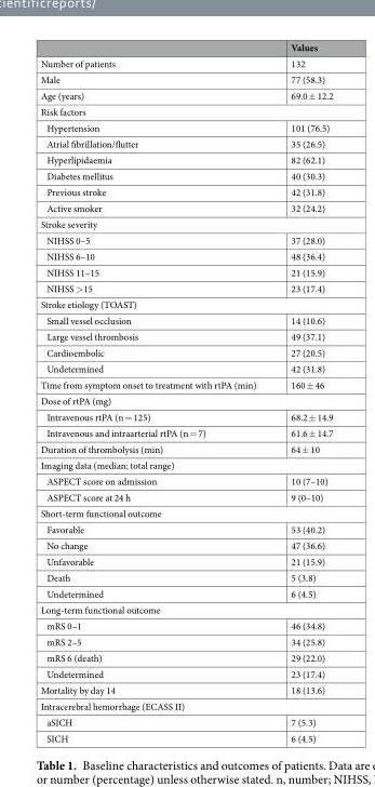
<table><thead><tr><td></td><td>Values</td></tr></thead><tbody><tr><td>Number of patients</td><td>132</td></tr><tr><td>Male</td><td>77 (58.3)</td></tr><tr><td>Age (years)</td><td>69.0 ± 12.2</td></tr><tr><td colspan="2">Risk factors</td></tr><tr><td>Hypertension</td><td>101 (76.5)</td></tr><tr><td>Atrial fibrillation/flutter</td><td>35 (26.5)</td></tr><tr><td>Hyperlipidaemia</td><td>82 (62.1)</td></tr><tr><td>Diabetes mellitus</td><td>40 (30.3)</td></tr><tr><td>Previous stroke</td><td>42 (31.8)</td></tr><tr><td>Active smoker</td><td>32 (24.2)</td></tr><tr><td colspan="2">Stroke severity</td></tr><tr><td>NIHSS 0–5</td><td>37 (28.0)</td></tr><tr><td>NIHSS 6–10</td><td>48 (36.4)</td></tr><tr><td>NIHSS 11–15</td><td>21 (15.9)</td></tr><tr><td>NIHSS &gt;15</td><td>23 (17.4)</td></tr><tr><td colspan="2">Stroke etiology (TOAST)</td></tr><tr><td>Small vessel occlusion</td><td>14 (10.6)</td></tr><tr><td>Large vessel thrombosis</td><td>49 (37.1)</td></tr><tr><td>Cardioembolic</td><td>27 (20.5)</td></tr><tr><td>Undetermined</td><td>42 (31.8)</td></tr><tr><td>Time from symptom onset to treatment with rtPA (min)</td><td>160 ± 46</td></tr><tr><td colspan="2">Dose of rtPA (mg)</td></tr><tr><td>Intravenous rtPA (n = 125)</td><td>68.2 ± 14.9</td></tr><tr><td>Intravenous and intraarterial rtPA (n = 7)</td><td>61.6 ± 14.7</td></tr><tr><td>Duration of thrombolysis (min)</td><td>64 ± 10</td></tr><tr><td colspan="2">Imaging data (median; total range)</td></tr><tr><td>ASPECT score on admission</td><td>10 (7–10)</td></tr><tr><td>ASPECT score at 24 h</td><td>9 (0–10)</td></tr><tr><td colspan="2">Short-term functional outcome</td></tr><tr><td>Favorable</td><td>53 (40.2)</td></tr><tr><td>No change</td><td>47 (36.6)</td></tr><tr><td>Unfavorable</td><td>21 (15.9)</td></tr><tr><td>Death</td><td>5 (3.8)</td></tr><tr><td>Undetermined</td><td>6 (4.5)</td></tr><tr><td colspan="2">Long-term functional outcome</td></tr><tr><td>mRS 0–1</td><td>46 (34.8)</td></tr><tr><td>mRS 2–5</td><td>34 (25.8)</td></tr><tr><td>mRS 6 (death)</td><td>29 (22.0)</td></tr><tr><td>Undetermined</td><td>23 (17.4)</td></tr><tr><td>Mortality by day 14</td><td>18 (13.6)</td></tr><tr><td colspan="2">Intracerebral hemorrhage (ECASS II)</td></tr><tr><td>aSICH</td><td>7 (5.3)</td></tr><tr><td>SICH</td><td>6 (4.5)</td></tr></tbody></table>